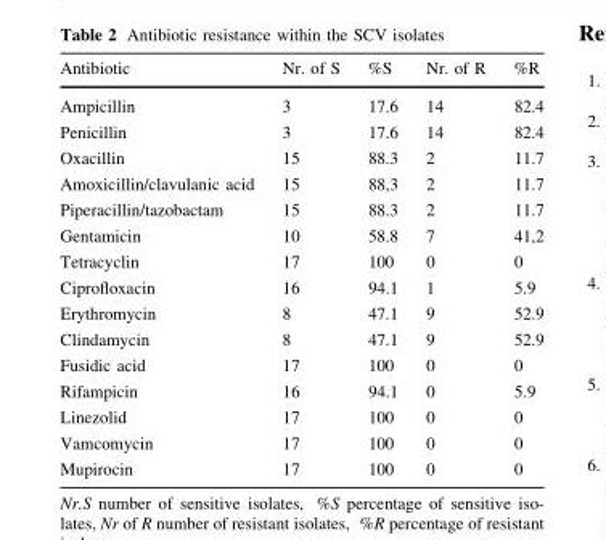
<table><thead><tr><td>Antibiotic</td><td>Nr. of S</td><td>%S</td><td>Nr. of R</td><td>%R</td></tr></thead><tbody><tr><td>Ampicillin</td><td>3</td><td>17.6</td><td>14</td><td>82.4</td></tr><tr><td>Penicillin</td><td>3</td><td>17.6</td><td>14</td><td>82.4</td></tr><tr><td>Oxacillin</td><td>15</td><td>88.3</td><td>2</td><td>11.7</td></tr><tr><td>Amoxicillin/clavulanic acid</td><td>15</td><td>88,3</td><td>2</td><td>11.7</td></tr><tr><td>Piperacillin/tazobactam</td><td>15</td><td>88.3</td><td>2</td><td>11.7</td></tr><tr><td>Gentamicin</td><td>10</td><td>58.8</td><td>7</td><td>41,2</td></tr><tr><td>Tetracyclin</td><td>17</td><td>100</td><td>0</td><td>0</td></tr><tr><td>Ciprofloxacin</td><td>16</td><td>94.1</td><td>1</td><td>5.9</td></tr><tr><td>Erythromycin</td><td>8</td><td>47.1</td><td>9</td><td>52.9</td></tr><tr><td>Clindamycin</td><td>8</td><td>47.1</td><td>9</td><td>52.9</td></tr><tr><td>Fusidic acid</td><td>17</td><td>100</td><td>0</td><td>0</td></tr><tr><td>Rifampicin</td><td>16</td><td>94.1</td><td>0</td><td>5.9</td></tr><tr><td>Linezolid</td><td>17</td><td>100</td><td>0</td><td>0</td></tr><tr><td>Vamcomycin</td><td>17</td><td>100</td><td>0</td><td>0</td></tr><tr><td>Mupirocin</td><td>17</td><td>100</td><td>0</td><td>0</td></tr></tbody></table>